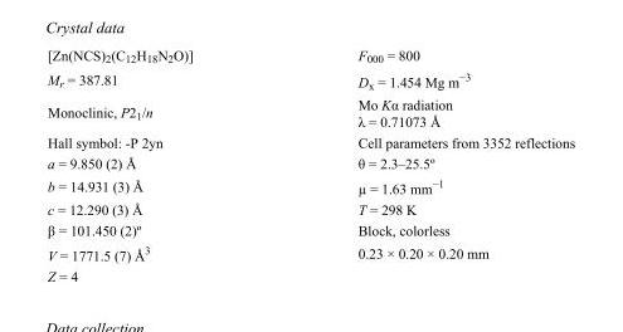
<table><tbody><tr><td>[Zn(NCS)<sub>2</sub>(C<sub>12</sub>H<sub>18</sub>N<sub>2</sub>O)]</td><td>F000 = 800</td></tr><tr><td>M<sub>r</sub> = 387.81</td><td>D<sub>x</sub> = 1.454 Mg m<sup>−3</sup></td></tr><tr><td>Monoclinic, P2<sub>1</sub>/n</td><td>Mo Kα radiation λ = 0.71073 Å</td></tr><tr><td>Hall symbol: -P 2yn</td><td>Cell parameters from 3352 reflections</td></tr><tr><td>a = 9.850 (2) Å</td><td>θ = 2.3–25.5º</td></tr><tr><td>b = 14.931 (3) Å</td><td>µ = 1.63 mm<sup>−1</sup></td></tr><tr><td>c = 12.290 (3) Å</td><td>T = 298 K</td></tr><tr><td>β = 101.450 (2)º</td><td>Block, colorless</td></tr><tr><td>V = 1771.5 (7) Å<sup>3</sup></td><td>0.23 × 0.20 × 0.20 mm</td></tr><tr><td>Z = 4</td><td></td></tr></tbody></table>